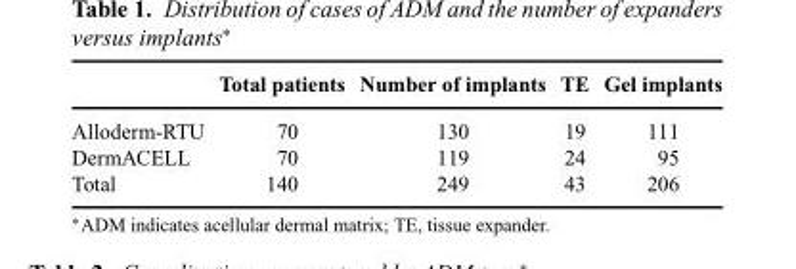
<table><thead><tr><td></td><td>Total patients</td><td>Number of implants</td><td>TE</td><td>Gel implants</td></tr></thead><tbody><tr><td>Alloderm-RTU</td><td>70</td><td>130</td><td>19</td><td>111</td></tr><tr><td>DermACELL</td><td>70</td><td>119</td><td>24</td><td>95</td></tr><tr><td>Total</td><td>140</td><td>249</td><td>43</td><td>206</td></tr></tbody></table>